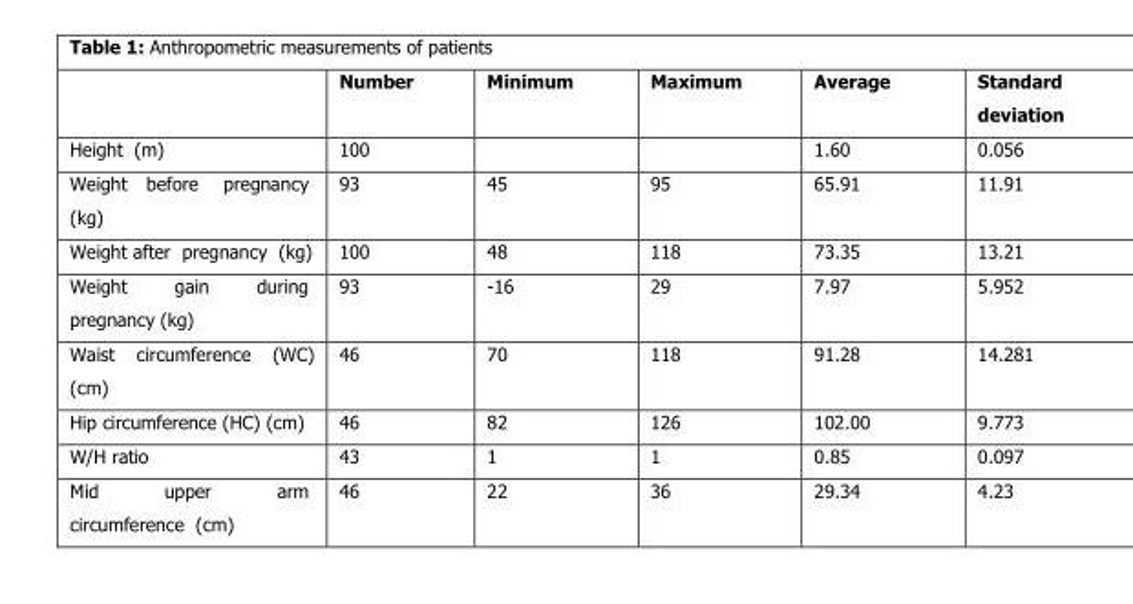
<table><thead><tr><td></td><td>Number</td><td>Minimum</td><td>Maximum</td><td>Average</td><td>Standard deviation</td></tr></thead><tbody><tr><td>Height (m)</td><td>100</td><td></td><td></td><td>1.60</td><td>0.056</td></tr><tr><td>Weight before pregnancy (kg)</td><td>93</td><td>45</td><td>95</td><td>65.91</td><td>11.91</td></tr><tr><td>Weight after pregnancy (kg)</td><td>100</td><td>48</td><td>118</td><td>73.35</td><td>13.21</td></tr><tr><td>Weight gain during pregnancy (kg)</td><td>93</td><td>-16</td><td>29</td><td>7.97</td><td>5.952</td></tr><tr><td>Waist circumference (WC) (cm)</td><td>46</td><td>70</td><td>118</td><td>91.28</td><td>14.281</td></tr><tr><td>Hip circumference (HC) (cm)</td><td>46</td><td>82</td><td>126</td><td>102.00</td><td>9.773</td></tr><tr><td>W/H ratio</td><td>43</td><td>1</td><td>1</td><td>0.85</td><td>0.097</td></tr><tr><td>Mid upper arm circumference (cm)</td><td>46</td><td>22</td><td>36</td><td>29.34</td><td>4.23</td></tr></tbody></table>